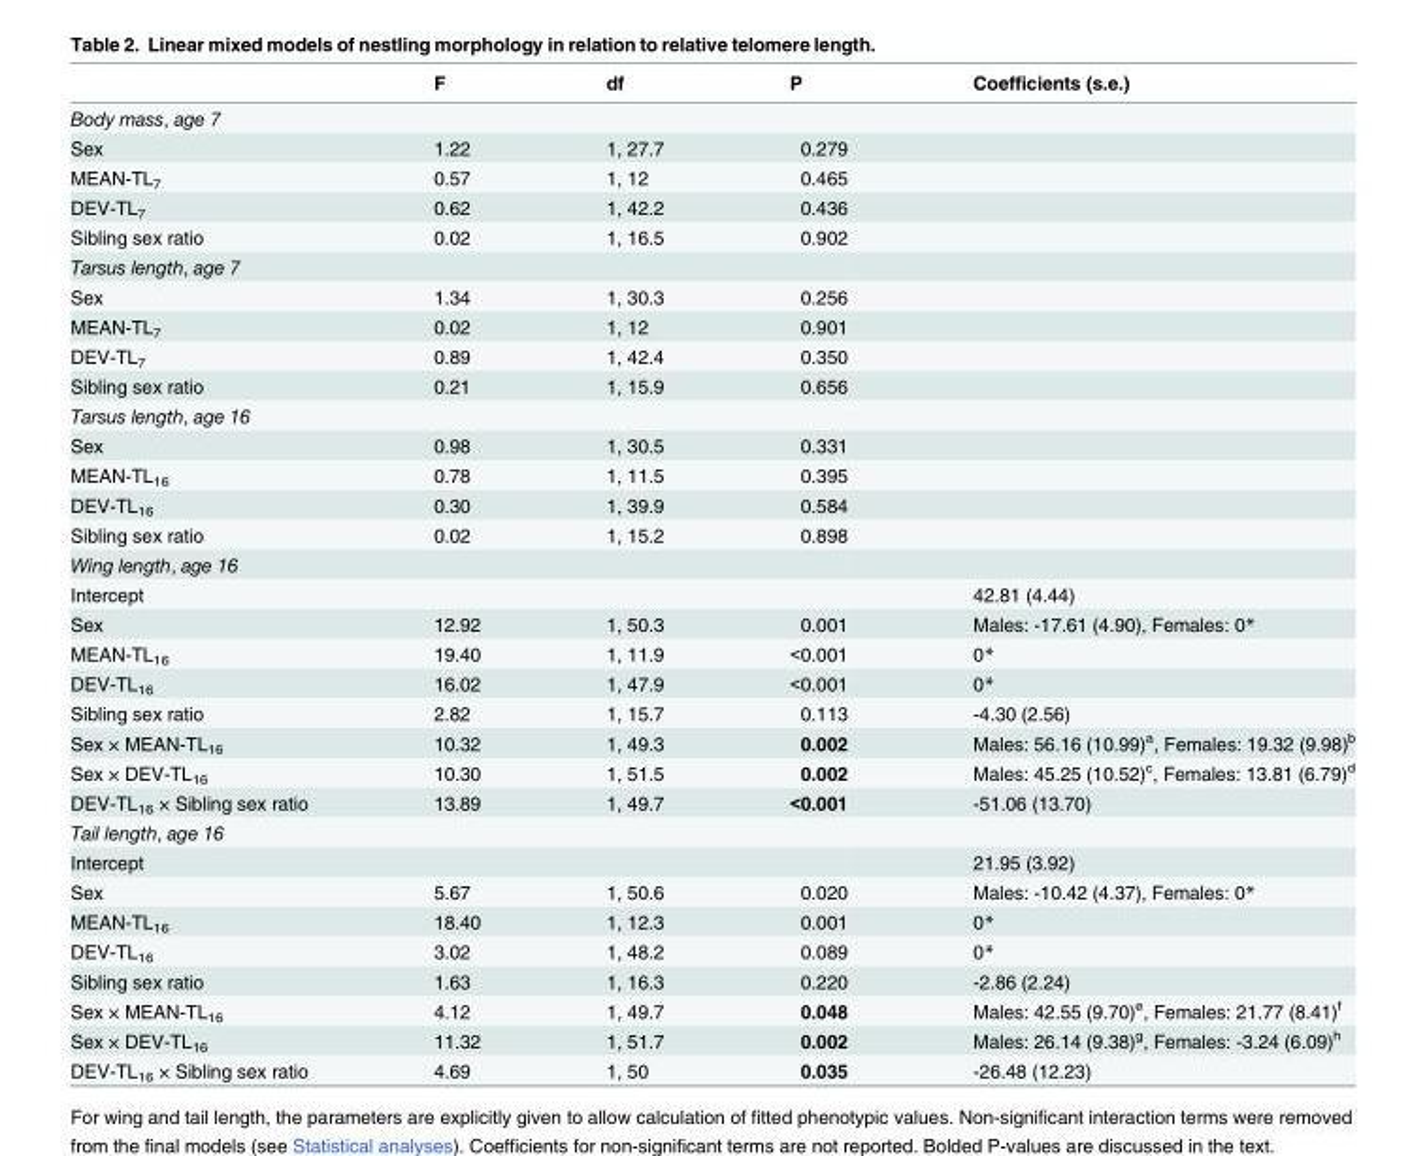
<table><thead><tr><td></td><td>F</td><td>df</td><td>P</td><td>Coefficients (s.e.)</td></tr></thead><tbody><tr><td colspan="5">Body mass, age 7</td></tr><tr><td>Sex</td><td>1.22</td><td>1, 27.7</td><td>0.279</td><td></td></tr><tr><td>MEAN-TL<sub>7</sub></td><td>0.57</td><td>1, 12</td><td>0.465</td><td></td></tr><tr><td>DEV-TL<sub>7</sub></td><td>0.62</td><td>1, 42.2</td><td>0.436</td><td></td></tr><tr><td>Sibling sex ratio</td><td>0.02</td><td>1, 16.5</td><td>0.902</td><td></td></tr><tr><td colspan="5">Tarsus length, age 7</td></tr><tr><td>Sex</td><td>1.34</td><td>1, 30.3</td><td>0.256</td><td></td></tr><tr><td>MEAN-TL<sub>7</sub></td><td>0.02</td><td>1, 12</td><td>0.901</td><td></td></tr><tr><td>DEV-TL<sub>7</sub></td><td>0.89</td><td>1, 42.4</td><td>0.350</td><td></td></tr><tr><td>Sibling sex ratio</td><td>0.21</td><td>1, 15.9</td><td>0.656</td><td></td></tr><tr><td colspan="5">Tarsus length, age 16</td></tr><tr><td>Sex</td><td>0.98</td><td>1, 30.5</td><td>0.331</td><td></td></tr><tr><td>MEAN-TL<sub>16</sub></td><td>0.78</td><td>1, 11.5</td><td>0.395</td><td></td></tr><tr><td>DEV-TL<sub>16</sub></td><td>0.30</td><td>1, 39.9</td><td>0.584</td><td></td></tr><tr><td>Sibling sex ratio</td><td>0.02</td><td>1, 15.2</td><td>0.898</td><td></td></tr><tr><td colspan="5">Wing length, age 16</td></tr><tr><td>Intercept</td><td></td><td></td><td></td><td>42.81 (4.44)</td></tr><tr><td>Sex</td><td>12.92</td><td>1, 50.3</td><td>0.001</td><td>Males: -17.61 (4.90), Females: 0*</td></tr><tr><td>MEAN-TL<sub>16</sub></td><td>19.40</td><td>1, 11.9</td><td>&lt;0.001</td><td>0*</td></tr><tr><td>DEV-TL<sub>16</sub></td><td>16.02</td><td>1, 47.9</td><td>&lt;0.001</td><td>0*</td></tr><tr><td>Sibling sex ratio</td><td>2.82</td><td>1, 15.7</td><td>0.113</td><td>-4.30 (2.56)</td></tr><tr><td>Sex × MEAN-TL<sub>16</sub></td><td>10.32</td><td>1, 49.3</td><td>0.002</td><td>Males: 56.16 (10.99)<sup>a</sup>, Females: 19.32 (9.98)<sup>b</sup></td></tr><tr><td>Sex × DEV-TL<sub>16</sub></td><td>10.30</td><td>1, 51.5</td><td>0.002</td><td>Males: 45.25 (10.52)<sup>c</sup>, Females: 13.81 (6.79)<sup>d</sup></td></tr><tr><td>DEV-TL<sub>16</sub> × Sibling sex ratio</td><td>13.89</td><td>1, 49.7</td><td>&lt;0.001</td><td>-51.06 (13.70)</td></tr><tr><td colspan="5">Tail length, age 16</td></tr><tr><td>Intercept</td><td></td><td></td><td></td><td>21.95 (3.92)</td></tr><tr><td>Sex</td><td>5.67</td><td>1, 50.6</td><td>0.020</td><td>Males: -10.42 (4.37), Females: 0*</td></tr><tr><td>MEAN-TL<sub>16</sub></td><td>18.40</td><td>1, 12.3</td><td>0.001</td><td>0*</td></tr><tr><td>DEV-TL<sub>16</sub></td><td>3.02</td><td>1, 48.2</td><td>0.089</td><td>0*</td></tr><tr><td>Sibling sex ratio</td><td>1.63</td><td>1, 16.3</td><td>0.220</td><td>-2.86 (2.24)</td></tr><tr><td>Sex × MEAN-TL<sub>16</sub></td><td>4.12</td><td>1, 49.7</td><td>0.048</td><td>Males: 42.55 (9.70)<sup>e</sup>, Females: 21.77 (8.41)<sup>f</sup></td></tr><tr><td>Sex × DEV-TL<sub>16</sub></td><td>11.32</td><td>1, 51.7</td><td>0.002</td><td>Males: 26.14 (9.38)<sup>g</sup>, Females: -3.24 (6.09)<sup>h</sup></td></tr><tr><td>DEV-TL<sub>16</sub> × Sibling sex ratio</td><td>4.69</td><td>1, 50</td><td>0.035</td><td>-26.48 (12.23)</td></tr></tbody></table>